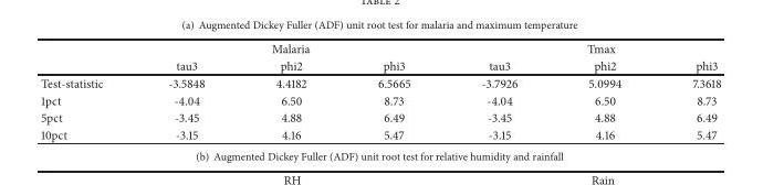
<table><thead><tr><td rowspan="2"></td><td colspan="3">Malaria</td><td colspan="3">Tmax</td></tr><tr><td>tau3</td><td>phi2</td><td>phi3</td><td>tau3</td><td>phi2</td><td>phi3</td></tr></thead><tbody><tr><td>Test-statistic</td><td>-3.5848</td><td>4.4182</td><td>6.5665</td><td>-3.7926</td><td>5.0994</td><td>7.3618</td></tr><tr><td>1pct</td><td>-4.04</td><td>6.50</td><td>8.73</td><td>-4.04</td><td>6.50</td><td>8.73</td></tr><tr><td>5pct</td><td>-3.45</td><td>4.88</td><td>6.49</td><td>-3.45</td><td>4.88</td><td>6.49</td></tr><tr><td>10pct</td><td>-3.15</td><td>4.16</td><td>5.47</td><td>-3.15</td><td>4.16</td><td>5.47</td></tr></tbody></table>